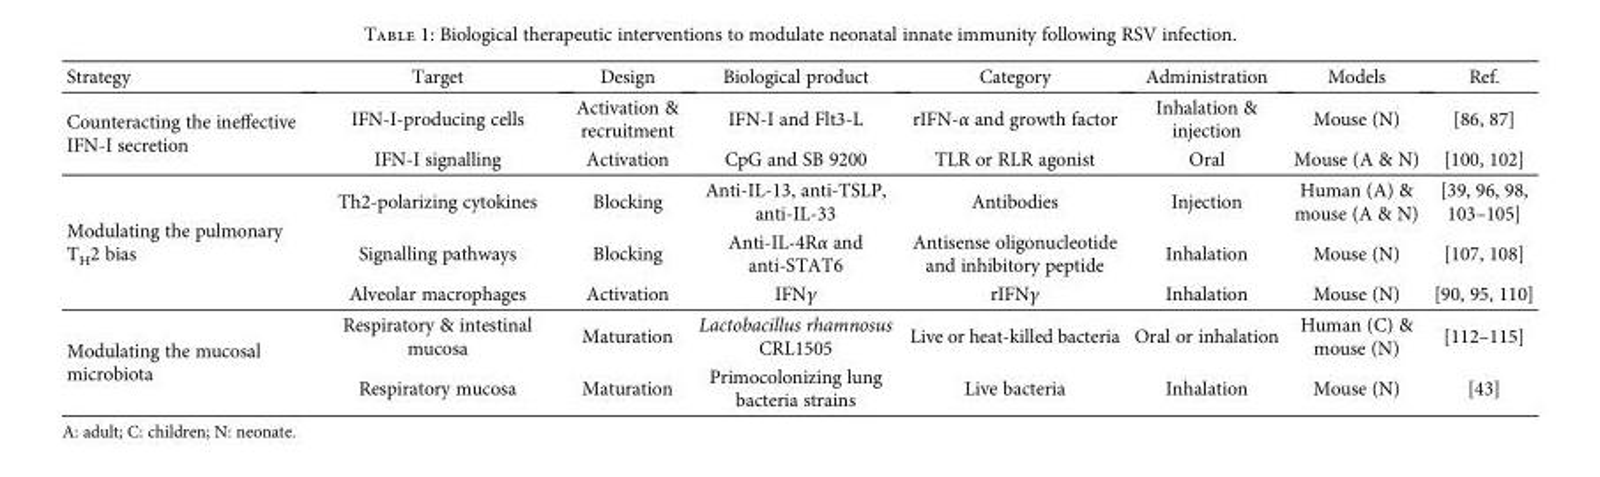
<table><thead><tr><td>Strategy</td><td>Target</td><td>Design</td><td>Biological product</td><td>Category</td><td>Administration</td><td>Models</td><td>Ref.</td></tr></thead><tbody><tr><td rowspan="2">Counteracting the ineffective IFN-I secretion</td><td>IFN-I-producing cells</td><td>Activation &amp; recruitment</td><td>IFN-I and Flt3-L</td><td>rIFN-α and growth factor</td><td>Inhalation &amp; injection</td><td>Mouse (N)</td><td>[86, 87]</td></tr><tr><td>IFN-I signalling</td><td>Activation</td><td>CpG and SB 9200</td><td>TLR or RLR agonist</td><td>Oral</td><td>Mouse (A &amp; N)</td><td>[100, 102]</td></tr><tr><td rowspan="3">Modulating the pulmonary T<sub>H</sub>2 bias</td><td>Th2-polarizing cytokines</td><td>Blocking</td><td>Anti-IL-13, anti-TSLP, anti-IL-33</td><td>Antibodies</td><td>Injection</td><td>Human (A) &amp; mouse (A &amp; N)</td><td>[39, 96, 98, 103–105]</td></tr><tr><td>Signalling pathways</td><td>Blocking</td><td>Anti-IL-4Rα and anti-STAT6</td><td>Antisense oligonucleotide and inhibitory peptide</td><td>Inhalation</td><td>Mouse (N)</td><td>[107, 108]</td></tr><tr><td>Alveolar macrophages</td><td>Activation</td><td>IFNγ</td><td>rIFNγ</td><td>Inhalation</td><td>Mouse (N)</td><td>[90, 95, 110]</td></tr><tr><td rowspan="2">Modulating the mucosal microbiota</td><td>Respiratory &amp; intestinal mucosa</td><td>Maturation</td><td>Lactobacillus rhamnosus CRL1505</td><td>Live or heat-killed bacteria</td><td>Oral or inhalation</td><td>Human (C) &amp; mouse (N)</td><td>[112–115]</td></tr><tr><td>Respiratory mucosa</td><td>Maturation</td><td>Primocolonizing lung bacteria strains</td><td>Live bacteria</td><td>Inhalation</td><td>Mouse (N)</td><td>[43]</td></tr></tbody></table>